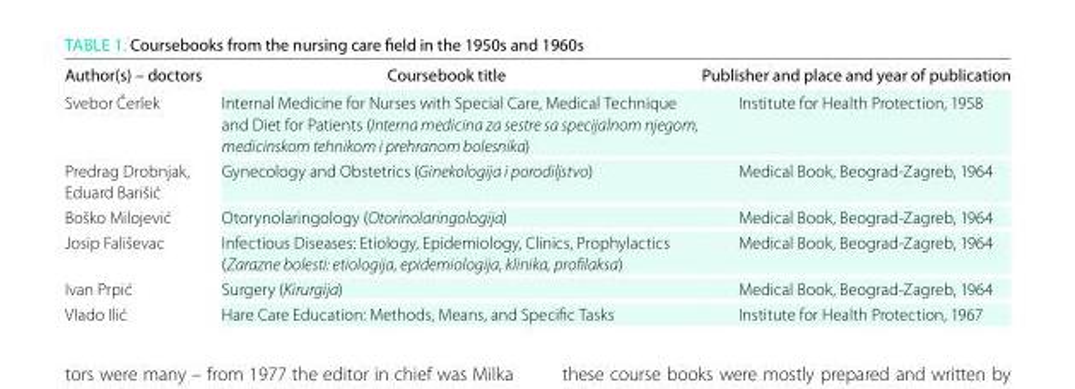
<table><thead><tr><td>Author(s) – doctors</td><td>Coursebook title</td><td>Publisher and place and year of publication</td></tr></thead><tbody><tr><td>Svebor Čerlek</td><td>Internal Medicine for Nurses with Special Care, Medical Technique and Diet for Patients (Interna medicina za sestre sa specijalnom njegom, medicinskom tehnikom i prehranom bolesnika)</td><td>Institute for Health Protection, 1958</td></tr><tr><td>Predrag Drobnjak, Eduard Barišić</td><td>Gynecology and Obstetrics (Ginekologija i porodiljstvo)</td><td>Medical Book, Beograd-Zagreb, 1964</td></tr><tr><td>Boško Milojević</td><td>Otorynolaringology (Otorinolaringologija)</td><td>Medical Book, Beograd-Zagreb, 1964</td></tr><tr><td>Josip Fališevac</td><td>Infectious Diseases: Etiology, Epidemiology, Clinics, Prophylactics (Zarazne bolesti: etiologija, epidemiologija, klinika, profilaksa)</td><td>Medical Book, Beograd-Zagreb, 1964</td></tr><tr><td>Ivan Prpić</td><td>Surgery (Kirurgija)</td><td>Medical Book, Beograd-Zagreb, 1964</td></tr><tr><td>Vlado Ilić</td><td>Hare Care Education: Methods, Means, and Specific Tasks</td><td>Institute for Health Protection, 1967</td></tr></tbody></table>